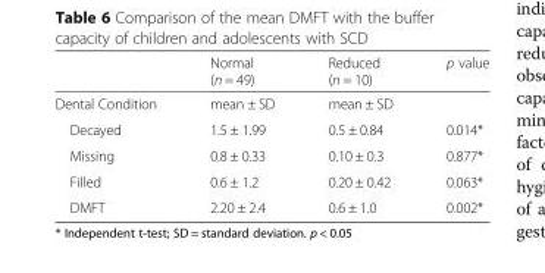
<table><thead><tr><td></td><td>Normal (n = 49)</td><td>Reduced (n = 10)</td><td>p value</td></tr></thead><tbody><tr><td>Dental Condition</td><td>mean ± SD</td><td>mean ± SD</td><td></td></tr><tr><td>Decayed</td><td>1.5 ± 1.99</td><td>0.5 ± 0.84</td><td>0.014*</td></tr><tr><td>Missing</td><td>0.8 ± 0.33</td><td>0.10 ± 0.3</td><td>0.877*</td></tr><tr><td>Filled</td><td>0.6 ± 1.2</td><td>0.20 ± 0.42</td><td>0.063*</td></tr><tr><td>DMFT</td><td>2.20 ± 2.4</td><td>0.6 ± 1.0</td><td>0.002*</td></tr></tbody></table>